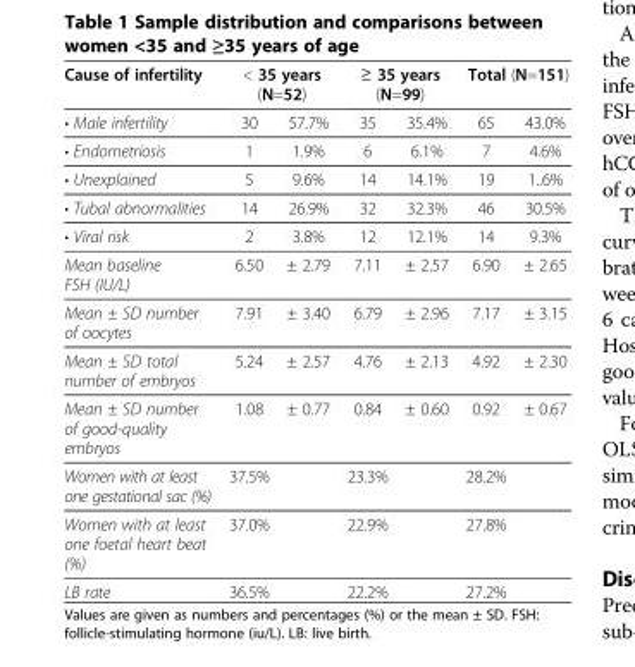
<table><thead><tr><td rowspan="2">Cause of infertility • Male infertility</td><td colspan="2">&lt; 35 years (N=52)</td><td colspan="2">≥ 35 years (N=99)</td><td colspan="2">Total (N=151)</td></tr><tr><td>30</td><td>57.7%</td><td>35</td><td>35.4%</td><td>65</td><td>43.0%</td></tr></thead><tbody><tr><td>• Endometriosis</td><td>1</td><td>1.9%</td><td>6</td><td>6.1%</td><td>7</td><td>4.6%</td></tr><tr><td>• Unexplained</td><td>5</td><td>9.6%</td><td>14</td><td>14.1%</td><td>19</td><td>1..6%</td></tr><tr><td>• Tubal abnormalities</td><td>14</td><td>26.9%</td><td>32</td><td>32.3%</td><td>46</td><td>30.5%</td></tr><tr><td>• Viral risk</td><td>2</td><td>3.8%</td><td>12</td><td>12.1%</td><td>14</td><td>9.3%</td></tr><tr><td>Mean baseline FSH (IU/L)</td><td>6.50</td><td>± 2.79</td><td>7.11</td><td>± 2.57</td><td>6.90</td><td>± 2.65</td></tr><tr><td>Mean ± SD number of oocytes</td><td>7.91</td><td>± 3.40</td><td>6.79</td><td>± 2.96</td><td>7.17</td><td>± 3.15</td></tr><tr><td>Mean ± SD total number of embryos</td><td>5.24</td><td>± 2.57</td><td>4.76</td><td>± 2.13</td><td>4.92</td><td>± 2.30</td></tr><tr><td>Mean ± SD number of good-quality embryos</td><td>1.08</td><td>± 0.77</td><td>0.84</td><td>± 0.60</td><td>0.92</td><td>± 0.67</td></tr><tr><td>Women with at least one gestational sac (%)</td><td>37.5%</td><td></td><td>23.3%</td><td></td><td>28.2%</td><td></td></tr><tr><td>Women with at least one foetal heart beat (%)</td><td>37.0%</td><td></td><td>22.9%</td><td></td><td>27.8%</td><td></td></tr><tr><td>LB rate</td><td>36.5%</td><td></td><td>22.2%</td><td></td><td>27.2%</td><td></td></tr></tbody></table>